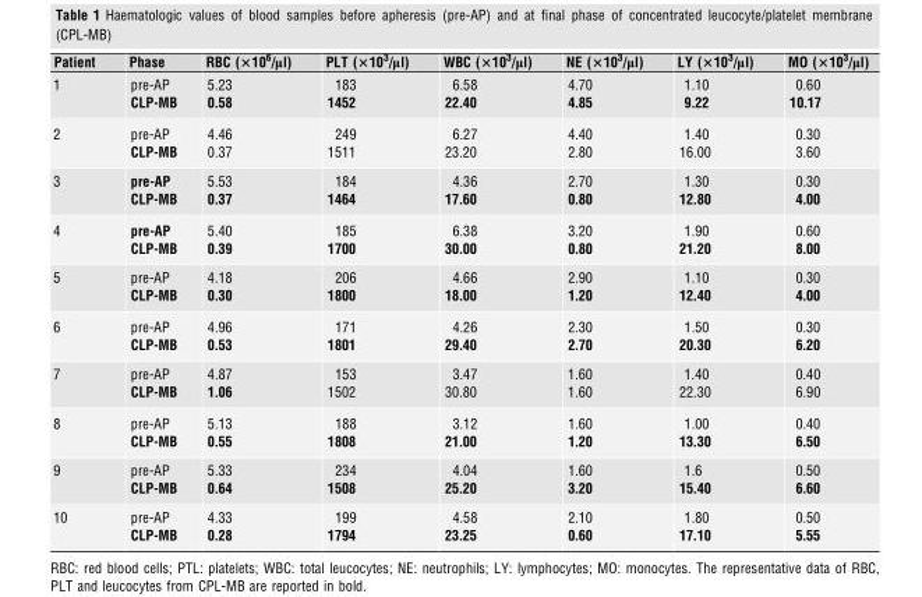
<table><thead><tr><td>Patient</td><td>Phase</td><td>RBC (×10<sup>6</sup>/μl)</td><td>PLT (×10<sup>3</sup>/μl)</td><td>WBC (×10<sup>3</sup>/μl)</td><td>NE (×10<sup>3</sup>/μl)</td><td>LY (×10<sup>3</sup>/μl)</td><td>MO (×10<sup>3</sup>/μl)</td></tr></thead><tbody><tr><td>1</td><td>pre-AP CLP-MB</td><td>5.23 0.58</td><td>183 1452</td><td>6.58 22.40</td><td>4.70 4.85</td><td>1.10 9.22</td><td>0.60 10.17</td></tr><tr><td>2</td><td>pre-AP CLP-MB</td><td>4.46 0.37</td><td>249 1511</td><td>6.27 23.20</td><td>4.40 2.80</td><td>1.40 16.00</td><td>0.30 3.60</td></tr><tr><td>3</td><td>pre-AP CLP-MB</td><td>5.53 0.37</td><td>184 1464</td><td>4.36 17.60</td><td>2.70 0.80</td><td>1.30 12.80</td><td>0.30 4.00</td></tr><tr><td>4</td><td>pre-AP CLP-MB</td><td>5.40 0.39</td><td>185 1700</td><td>6.38 30.00</td><td>3.20 0.80</td><td>1.90 21.20</td><td>0.60 8.00</td></tr><tr><td>5</td><td>pre-AP CLP-MB</td><td>4.18 0.30</td><td>206 1800</td><td>4.66 18.00</td><td>2.90 1.20</td><td>1.10 12.40</td><td>0.30 4.00</td></tr><tr><td>6</td><td>pre-AP CLP-MB</td><td>4.96 0.53</td><td>171 1801</td><td>4.26 29.40</td><td>2.30 2.70</td><td>1.50 20.30</td><td>0.30 6.20</td></tr><tr><td>7</td><td>pre-AP CLP-MB</td><td>4.87 1.06</td><td>153 1502</td><td>3.47 30.80</td><td>1.60 1.60</td><td>1.40 22.30</td><td>0.40 6.90</td></tr><tr><td>8</td><td>pre-AP CLP-MB</td><td>5.13 0.55</td><td>188 1808</td><td>3.12 21.00</td><td>1.60 1.20</td><td>1.00 13.30</td><td>0.40 6.50</td></tr><tr><td>9</td><td>pre-AP CLP-MB</td><td>5.33 0.64</td><td>234 1508</td><td>4.04 25.20</td><td>1.60 3.20</td><td>1.6 15.40</td><td>0.50 6.60</td></tr><tr><td>10</td><td>pre-AP CLP-MB</td><td>4.33 0.28</td><td>199 1794</td><td>4.58 23.25</td><td>2.10 0.60</td><td>1.80 17.10</td><td>0.50 5.55</td></tr></tbody></table>